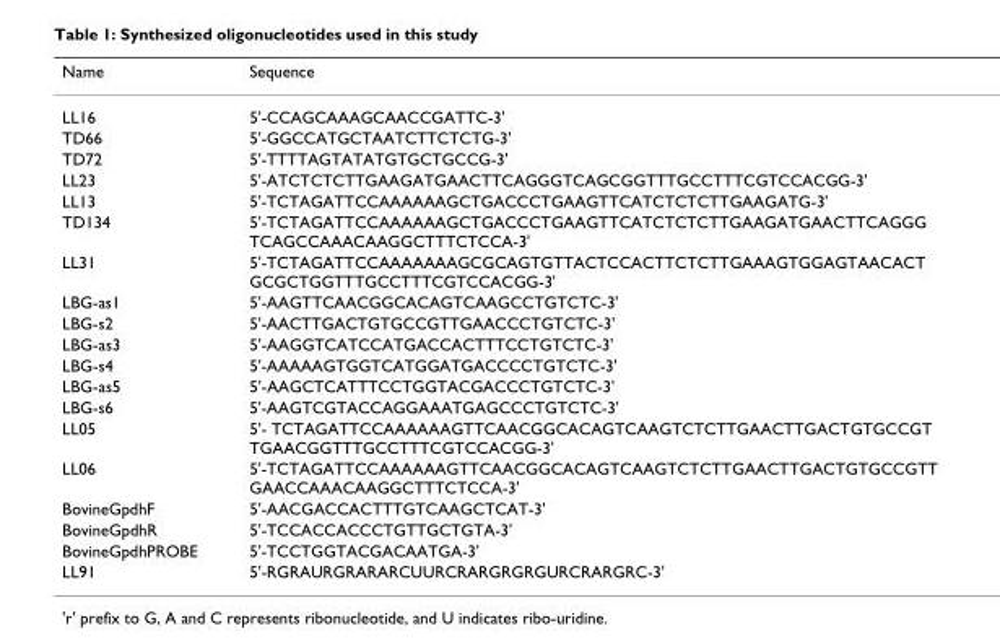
<table><thead><tr><td>Name</td><td>Sequence</td></tr></thead><tbody><tr><td>LL16</td><td>5&#x27;-CCAGCAAAGCAACCGATTC-3&#x27;</td></tr><tr><td>TD66</td><td>5&#x27;-GGCCATGCTAATCTTCTCTG-3&#x27;</td></tr><tr><td>TD72</td><td>5&#x27;-TTTTAGTATATGTGCTGCCG-3&#x27;</td></tr><tr><td>LL23</td><td>5&#x27;-ATCTCTCTTGAAGATGAACTTCAGGGTCAGCGGTTTGCCTTTCGTCCACGG-3&#x27;</td></tr><tr><td>LL13</td><td>5&#x27;-TCTAGATTCCAAAAAAGCTGACCCTGAAGTTCATCTCTCTTGAAGATG-3&#x27;</td></tr><tr><td>TD134</td><td>5&#x27;-TCTAGATTCCAAAAAAGCTGACCCTGAAGTTCATCTCTCTTGAAGATGAACTTCAGGG TCAGCCAAACAAGGCTTTCTCCA-3&#x27;</td></tr><tr><td>LL31</td><td>5&#x27;-TCTAGATTCCAAAAAAAGCGCAGTGTTACTCCACTTCTCTTGAAAGTGGAGTAACACT GCGCTGGTTTGCCTTTCGTCCACGG-3&#x27;</td></tr><tr><td>LBG-as1</td><td>5&#x27;-AAGTTCAACGGCACAGTCAAGCCTGTCTC-3&#x27;</td></tr><tr><td>LBG-s2</td><td>5&#x27;-AACTTGACTGTGCCGTTGAACCCTGTCTC-3&#x27;</td></tr><tr><td>LBG-as3</td><td>5&#x27;-AAGGTCATCCATGACCACTTTCCTGTCTC-3&#x27;</td></tr><tr><td>LBG-s4</td><td>5&#x27;-AAAAAGTGGTCATGGATGACCCCTGTCTC-3&#x27;</td></tr><tr><td>LBG-as5</td><td>5&#x27;-AAGCTCATTTCCTGGTACGACCCTGTCTC-3&#x27;</td></tr><tr><td>LBG-s6</td><td>5&#x27;-AAGTCGTACCAGGAAATGAGCCCTGTCTC-3&#x27;</td></tr><tr><td>LL05</td><td>5&#x27;- TCTAGATTCCAAAAAAGTTCAACGGCACAGTCAAGTCTCTTGAACTTGACTGTGCCGT TGAACGGTTTGCCTTTCGTCCACGG-3&#x27;</td></tr><tr><td>LL06</td><td>5&#x27;-TCTAGATTCCAAAAAAGTTCAACGGCACAGTCAAGTCTCTTGAACTTGACTGTGCCGTT GAACCAAACAAGGCTTTCTCCA-3&#x27;</td></tr><tr><td>BovineGpdhF</td><td>5&#x27;-AACGACCACTTTGTCAAGCTCAT-3&#x27;</td></tr><tr><td>BovineGpdhR</td><td>5&#x27;-TCCACCACCCTGTTGCTGTA-3&#x27;</td></tr><tr><td>BovineGpdhPROBE</td><td>5&#x27;-TCCTGGTACGACAATGA-3&#x27;</td></tr><tr><td>LL91</td><td>5&#x27;-RGRAURGRARARCUURCRARGRGRGURCRARGRC-3&#x27;</td></tr></tbody></table>